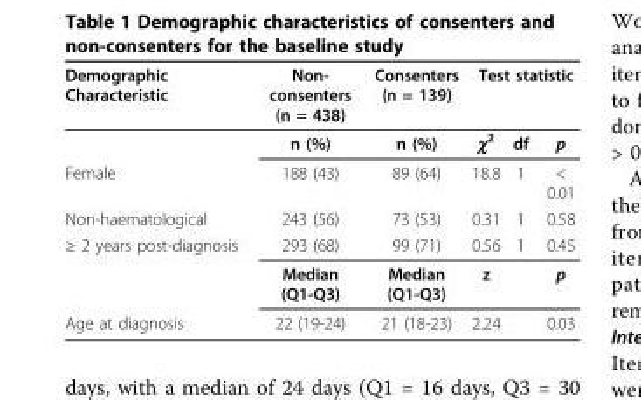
<table><thead><tr><td rowspan="2">Demographic Characteristic</td><td rowspan="2">Non- consenters (n = 438) n (%)</td><td rowspan="2">Consenters (n = 139) n (%)</td><td colspan="3">Test statistic</td></tr><tr><td>χ<sup>2</sup></td><td>df</td><td>p</td></tr></thead><tbody><tr><td>Female</td><td>188 (43)</td><td>89 (64)</td><td>18.8</td><td>1</td><td>&lt; 0.01</td></tr><tr><td>Non-haematological</td><td>243 (56)</td><td>73 (53)</td><td>0.31</td><td>1</td><td>0.58</td></tr><tr><td rowspan="2">≥ 2 years post-diagnosis</td><td>293 (68)</td><td>99 (71)</td><td>0.56</td><td>1</td><td>0.45</td></tr><tr><td>Median (Q1-Q3)</td><td>Median (Q1-Q3)</td><td>z</td><td></td><td>p</td></tr><tr><td>Age at diagnosis</td><td>22 (19-24)</td><td>21 (18-23)</td><td>2.24</td><td></td><td>0.03</td></tr></tbody></table>